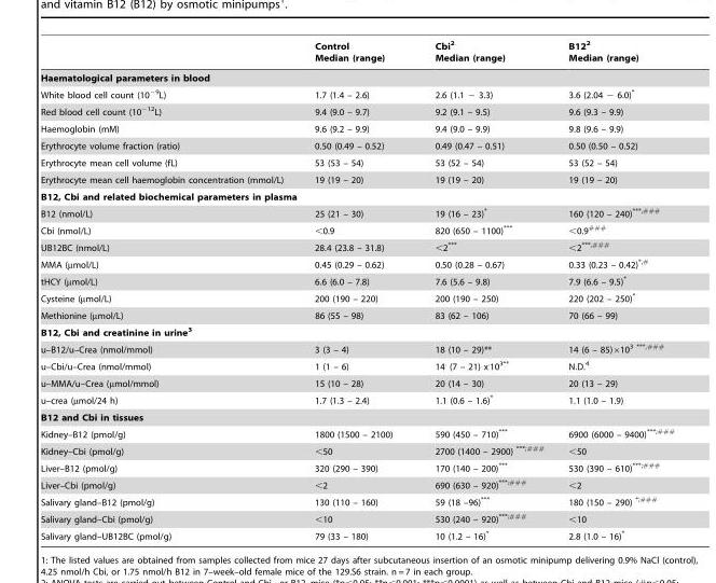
<table><thead><tr><td></td><td>Control Median (range)</td><td>Cbi<sup>2</sup> Median (range)</td><td>B12<sup>2</sup> Median (range)</td></tr></thead><tbody><tr><td colspan="4">Haematological parameters in blood</td></tr><tr><td>White blood cell count (10<sup>−9</sup>L)</td><td>1.7 (1.4 – 2.6)</td><td>2.6 (1.1 − 3.3)</td><td>3.6 (2.04 − 6.0)*</td></tr><tr><td>Red blood cell count (10<sup>−12</sup>L)</td><td>9.4 (9.0 – 9.7)</td><td>9.2 (9.1 – 9.5)</td><td>9.6 (9.3 – 9.9)</td></tr><tr><td>Haemoglobin (mM)</td><td>9.6 (9.2 – 9.9)</td><td>9.4 (9.0 – 9.9)</td><td>9.8 (9.6 – 9.9)</td></tr><tr><td>Erythrocyte volume fraction (ratio)</td><td>0.50 (0.49 – 0.52)</td><td>0.49 (0.47 – 0.51)</td><td>0.50 (0.50 – 0.52)</td></tr><tr><td>Erythrocyte mean cell volume (fL)</td><td>53 (53 – 54)</td><td>53 (52 – 54)</td><td>53 (52 – 54)</td></tr><tr><td>Erythrocyte mean cell haemoglobin concentration (mmol/L)</td><td>19 (19 – 20)</td><td>19 (19 – 20)</td><td>19 (19 – 20)</td></tr><tr><td colspan="4">B12, Cbi and related biochemical parameters in plasma</td></tr><tr><td>B12 (nmol/L)</td><td>25 (21 – 30)</td><td>19 (16 – 23)*</td><td>160 (120 – 240)<sup>***,###</sup></td></tr><tr><td>Cbi (nmol/L)</td><td>&lt;0.9</td><td>820 (650 – 1100)***</td><td>&lt;0.9<sup>###</sup></td></tr><tr><td>UB12BC (nmol/L)</td><td>28.4 (23.8 – 31.8)</td><td>&lt;2***</td><td>&lt;2<sup>***,###</sup></td></tr><tr><td>MMA (µmol/L)</td><td>0.45 (0.29 – 0.62)</td><td>0.50 (0.28 – 0.67)</td><td>0.33 (0.23 – 0.42)<sup>*,#</sup></td></tr><tr><td>tHCY (µmol/L)</td><td>6.6 (6.0 – 7.8)</td><td>7.6 (5.6 – 9.8)</td><td>7.9 (6.6 – 9.5)*</td></tr><tr><td>Cysteine (µmol/L)</td><td>200 (190 – 220)</td><td>200 (190 – 250)</td><td>220 (202 – 250)*</td></tr><tr><td>Methionine (µmol/L)</td><td>86 (55 – 98)</td><td>83 (62 – 106)</td><td>70 (66 – 99)</td></tr><tr><td colspan="4">B12, Cbi and creatinine in urine<sup>3</sup></td></tr><tr><td>u–B12/u–Crea (nmol/mmol)</td><td>3 (3 – 4)</td><td>18 (10 – 29)**</td><td>14 (6 – 85)×10<sup>3 ***,###</sup></td></tr><tr><td>u–Cbi/u–Crea (nmol/mmol)</td><td>1 (1 – 6)</td><td>14<sup>.</sup> (7 – 21) x<sup>.</sup>10<sup>3**</sup></td><td>N.D.<sup>4</sup></td></tr><tr><td>u–MMA/u–Crea (μmol/mmol)</td><td>15 (10 – 28)</td><td>20 (14 – 30)</td><td>20 (13 – 29)</td></tr><tr><td>u–crea (µmol/24 h)</td><td>1.7 (1.3 – 2.4)</td><td>1.1 (0.6 – 1.6)*</td><td>1.1 (1.0 – 1.9)</td></tr><tr><td colspan="4">B12 and Cbi in tissues</td></tr><tr><td>Kidney–B12 (pmol/g)</td><td>1800 (1500 – 2100)</td><td>590 (450 – 710)***</td><td>6900 (6000 – 9400)<sup>***;###</sup></td></tr><tr><td>Kidney–Cbi (pmol/g)</td><td>&lt;50</td><td>2700 (1400 – 2900) <sup>***;###</sup></td><td>&lt;50</td></tr><tr><td>Liver–B12 (pmol/g)</td><td>320 (290 – 390)</td><td>170 (140 – 200)***</td><td>530 (390 – 610)<sup>***;###</sup></td></tr><tr><td>Liver–Cbi (pmol/g)</td><td>&lt;2</td><td>690 (630 – 920)<sup>***;###</sup></td><td>&lt;2</td></tr><tr><td>Salivary gland–B12 (pmol/g)</td><td>130 (110 – 160)</td><td>59 (18 –96)***</td><td>180 (150 – 290) <sup>*;###</sup></td></tr><tr><td>Salivary gland–Cbi (pmol/g)</td><td>&lt;10</td><td>530 (240 – 920)<sup>***;###</sup></td><td>&lt;10</td></tr><tr><td>Salivary gland–UB12BC (pmol/g)</td><td>79 (33 – 180)</td><td>10 (1.2 – 16)*</td><td>2.8 (1.0 – 16)*</td></tr></tbody></table>